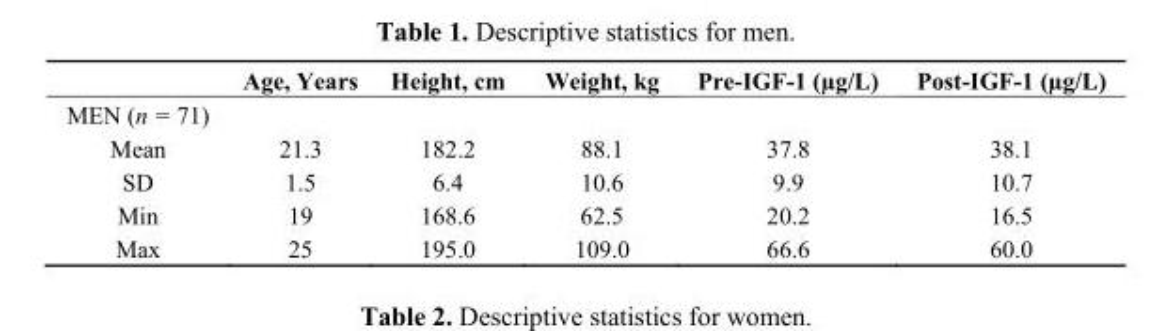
<table><thead><tr><td></td><td>Age, Years</td><td>Height, cm</td><td>Weight, kg</td><td>Pre-IGF-1 (µg/L)</td><td>Post-IGF-1 (µg/L)</td></tr></thead><tbody><tr><td colspan="6">MEN (n = 71)</td></tr><tr><td>Mean</td><td>21.3</td><td>182.2</td><td>88.1</td><td>37.8</td><td>38.1</td></tr><tr><td>SD</td><td>1.5</td><td>6.4</td><td>10.6</td><td>9.9</td><td>10.7</td></tr><tr><td>Min</td><td>19</td><td>168.6</td><td>62.5</td><td>20.2</td><td>16.5</td></tr><tr><td>Max</td><td>25</td><td>195.0</td><td>109.0</td><td>66.6</td><td>60.0</td></tr></tbody></table>